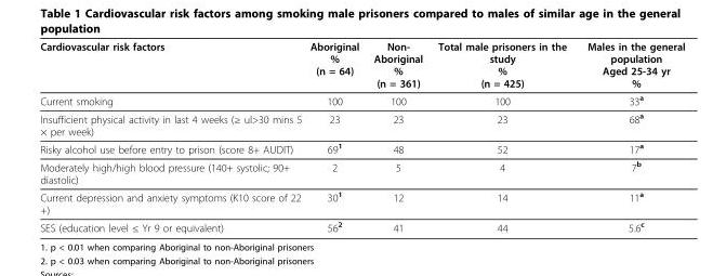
<table><thead><tr><td>Cardiovascular risk factors</td><td>Aboriginal % (n = 64)</td><td>Non- Aboriginal % (n = 361)</td><td>Total male prisoners in the study % (n = 425)</td><td>Males in the general population Aged 25-34 yr %</td></tr></thead><tbody><tr><td>Current smoking</td><td>100</td><td>100</td><td>100</td><td>33<sup>a</sup></td></tr><tr><td>Insufficient physical activity in last 4 weeks (≥ ul&gt;30 mins 5 × per week)</td><td>23</td><td>23</td><td>23</td><td>68<sup>a</sup></td></tr><tr><td>Risky alcohol use before entry to prison (score 8+ AUDIT)</td><td>69<sup>1</sup></td><td>48</td><td>52</td><td>17<sup>a</sup></td></tr><tr><td>Moderately high/high blood pressure (140+ systolic; 90+ diastolic)</td><td>2</td><td>5</td><td>4</td><td>7<sup>b</sup></td></tr><tr><td>Current depression and anxiety symptoms (K10 score of 22 +)</td><td>30<sup>1</sup></td><td>12</td><td>14</td><td>11<sup>a</sup></td></tr><tr><td>SES (education level ≤ Yr 9 or equivalent)</td><td>56<sup>2</sup></td><td>41</td><td>44</td><td>5.6<sup>c</sup></td></tr></tbody></table>